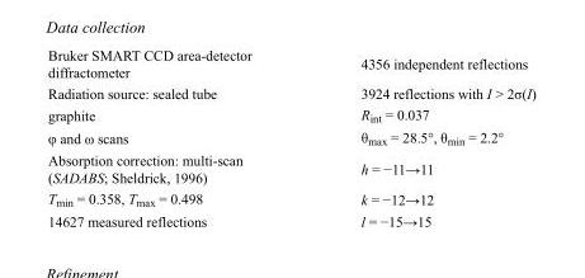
<table><tbody><tr><td>Bruker SMART CCD area-detector diffractometer</td><td>4356 independent reflections</td></tr><tr><td>Radiation source: sealed tube</td><td>3924 reflections with I &gt; 2σ(I)</td></tr><tr><td>graphite</td><td>R<sub>int</sub> = 0.037</td></tr><tr><td>φ and ω scans</td><td>θ<sub>max</sub> = 28.5°, θ<sub>min</sub> = 2.2°</td></tr><tr><td>Absorption correction: multi-scan (SADABS; Sheldrick, 1996)</td><td>h = −11→11</td></tr><tr><td>T<sub>min</sub> = 0.358, T<sub>max</sub> = 0.498</td><td>k = −12→12</td></tr><tr><td>14627 measured reflections</td><td>l = −15→15</td></tr></tbody></table>